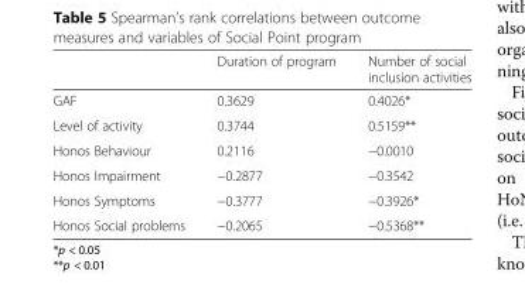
<table><thead><tr><td></td><td>Duration of program</td><td>Number of social inclusion activities</td></tr></thead><tbody><tr><td>GAF</td><td>0.3629</td><td>0.4026*</td></tr><tr><td>Level of activity</td><td>0.3744</td><td>0.5159**</td></tr><tr><td>Honos Behaviour</td><td>0.2116</td><td>−0.0010</td></tr><tr><td>Honos Impairment</td><td>−0.2877</td><td>−0.3542</td></tr><tr><td>Honos Symptoms</td><td>−0.3777</td><td>−0.3926*</td></tr><tr><td>Honos Social problems</td><td>−0.2065</td><td>−0.5368**</td></tr></tbody></table>